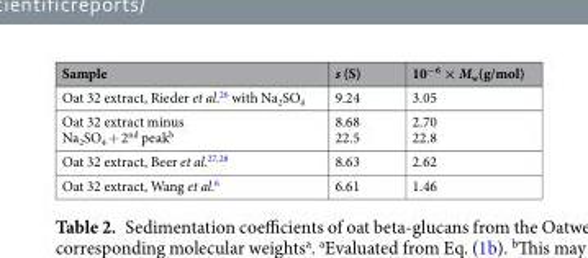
<table><thead><tr><td>Sample</td><td>s (S)</td><td>10<sup>−6</sup> × M<sub>w</sub>(g/mol)</td></tr></thead><tbody><tr><td>Oat 32 extract, Rieder et al.<sup>26</sup> with Na<sub>2</sub>SO<sub>4</sub></td><td>9.24</td><td>3.05</td></tr><tr><td>Oat 32 extract minus Na<sub>2</sub>SO<sub>4</sub> + 2<sup>nd</sup> peak<sup>b</sup></td><td>8.68 22.5</td><td>2.70 22.8</td></tr><tr><td>Oat 32 extract, Beer et al.<sup>27,28</sup></td><td>8.63</td><td>2.62</td></tr><tr><td>Oat 32 extract, Wang et al.<sup>6</sup></td><td>6.61</td><td>1.46</td></tr></tbody></table>